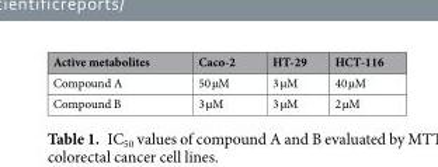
<table><thead><tr><td>Active metabolites</td><td>Caco-2</td><td>HT-29</td><td>HCT-116</td></tr></thead><tbody><tr><td>Compound A</td><td>50 µM</td><td>3 µM</td><td>40 µM</td></tr><tr><td>Compound B</td><td>3 µM</td><td>3 µM</td><td>2 µM</td></tr></tbody></table>